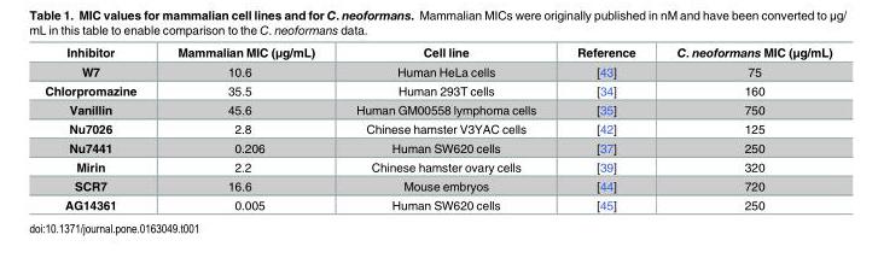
<table><thead><tr><td>Inhibitor</td><td>Mammalian MIC (μg/mL)</td><td>Cell line</td><td>Reference</td><td>C. neoformans MIC (μg/mL)</td></tr></thead><tbody><tr><td>W7</td><td>10.6</td><td>Human HeLa cells</td><td>[43]</td><td>75</td></tr><tr><td>Chlorpromazine</td><td>35.5</td><td>Human 293T cells</td><td>[34]</td><td>160</td></tr><tr><td>Vanillin</td><td>45.6</td><td>Human GM00558 lymphoma cells</td><td>[35]</td><td>750</td></tr><tr><td>Nu7026</td><td>2.8</td><td>Chinese hamster V3YAC cells</td><td>[42]</td><td>125</td></tr><tr><td>Nu7441</td><td>0.206</td><td>Human SW620 cells</td><td>[37]</td><td>250</td></tr><tr><td>Mirin</td><td>2.2</td><td>Chinese hamster ovary cells</td><td>[39]</td><td>320</td></tr><tr><td>SCR7</td><td>16.6</td><td>Mouse embryos</td><td>[44]</td><td>720</td></tr><tr><td>AG14361</td><td>0.005</td><td>Human SW620 cells</td><td>[45]</td><td>250</td></tr></tbody></table>